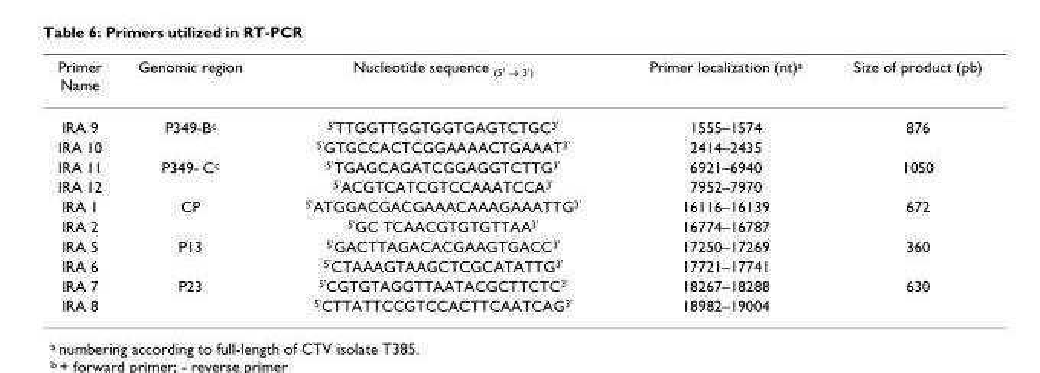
<table><thead><tr><td>Primer Name</td><td>Genomic region</td><td>Nucleotide sequence <sub>(5&#x27; → 3&#x27;)</sub></td><td>Primer localization (nt)<sup>a</sup></td><td>Size of product (pb)</td></tr></thead><tbody><tr><td>IRA 9</td><td>P349-B<sup>c</sup></td><td><sup>5&#x27;</sup>TTGGTTGGTGGTGAGTCTGC<sup>3&#x27;</sup></td><td>1555–1574</td><td>876</td></tr><tr><td>IRA 10</td><td></td><td><sup>5&#x27;</sup>GTGCCACTCGGAAAACTGAAAT<sup>3&#x27;</sup></td><td>2414–2435</td><td></td></tr><tr><td>IRA 11</td><td>P349- C<sup>c</sup></td><td><sup>5&#x27;</sup>TGAGCAGATCGGAGGTCTTG<sup>3&#x27;</sup></td><td>6921–6940</td><td>1050</td></tr><tr><td>IRA 12</td><td></td><td><sup>5&#x27;</sup>ACGTCATCGTCCAAATCCA<sup>3&#x27;</sup></td><td>7952–7970</td><td></td></tr><tr><td>IRA 1</td><td>CP</td><td><sup>5&#x27;</sup>ATGGACGACGAAACAAAGAAATTG<sup>3&#x27;</sup></td><td>16116–16139</td><td>672</td></tr><tr><td>IRA 2</td><td></td><td><sup>5&#x27;</sup>GC TCAACGTGTGTTAA<sup>3&#x27;</sup></td><td>16774–16787</td><td></td></tr><tr><td>IRA 5</td><td>P13</td><td><sup>5&#x27;</sup>GACTTAGACACGAAGTGACC<sup>3&#x27;</sup></td><td>17250–17269</td><td>360</td></tr><tr><td>IRA 6</td><td></td><td><sup>5&#x27;</sup>CTAAAGTAAGCTCGCATATTG<sup>3&#x27;</sup></td><td>17721–17741</td><td></td></tr><tr><td>IRA 7</td><td>P23</td><td><sup>5&#x27;</sup>CGTGTAGGTTAATACGCTTCTC<sup>3&#x27;</sup></td><td>18267–18288</td><td>630</td></tr><tr><td>IRA 8</td><td></td><td><sup>5&#x27;</sup>CTTATTCCGTCCACTTCAATCAG<sup>3&#x27;</sup></td><td>18982–19004</td><td></td></tr></tbody></table>